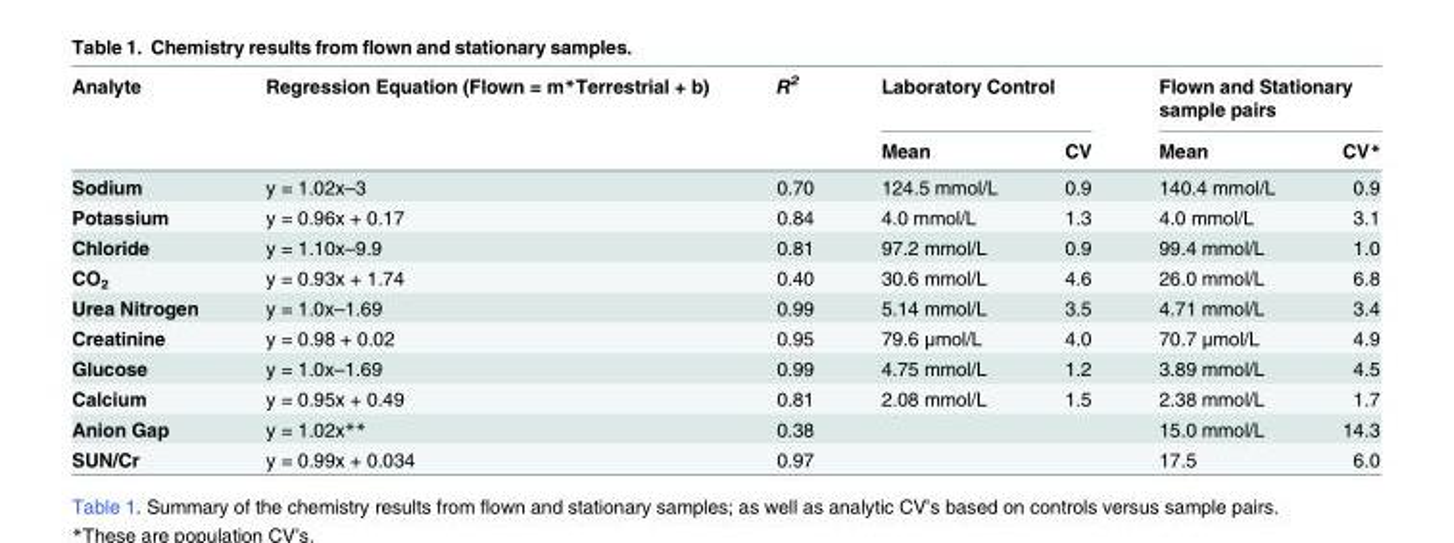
<table><thead><tr><td rowspan="2">Analyte</td><td rowspan="2">Regression Equation (Flown = m*Terrestrial + b)</td><td rowspan="2">R<sup>2</sup></td><td colspan="2">Laboratory Control</td><td colspan="2">Flown and Stationary sample pairs</td></tr><tr><td>Mean</td><td>CV</td><td>Mean</td><td>CV*</td></tr></thead><tbody><tr><td>Sodium</td><td>y = 1.02x–3</td><td>0.70</td><td>124.5 mmol/L</td><td>0.9</td><td>140.4 mmol/L</td><td>0.9</td></tr><tr><td>Potassium</td><td>y = 0.96x + 0.17</td><td>0.84</td><td>4.0 mmol/L</td><td>1.3</td><td>4.0 mmol/L</td><td>3.1</td></tr><tr><td>Chloride</td><td>y = 1.10x–9.9</td><td>0.81</td><td>97.2 mmol/L</td><td>0.9</td><td>99.4 mmol/L</td><td>1.0</td></tr><tr><td>CO<sub>2</sub></td><td>y = 0.93x + 1.74</td><td>0.40</td><td>30.6 mmol/L</td><td>4.6</td><td>26.0 mmol/L</td><td>6.8</td></tr><tr><td>Urea Nitrogen</td><td>y = 1.0x–1.69</td><td>0.99</td><td>5.14 mmol/L</td><td>3.5</td><td>4.71 mmol/L</td><td>3.4</td></tr><tr><td>Creatinine</td><td>y = 0.98 + 0.02</td><td>0.95</td><td>79.6 μmol/L</td><td>4.0</td><td>70.7 μmol/L</td><td>4.9</td></tr><tr><td>Glucose</td><td>y = 1.0x–1.69</td><td>0.99</td><td>4.75 mmol/L</td><td>1.2</td><td>3.89 mmol/L</td><td>4.5</td></tr><tr><td>Calcium</td><td>y = 0.95x + 0.49</td><td>0.81</td><td>2.08 mmol/L</td><td>1.5</td><td>2.38 mmol/L</td><td>1.7</td></tr><tr><td>Anion Gap</td><td>y = 1.02x**</td><td>0.38</td><td></td><td></td><td>15.0 mmol/L</td><td>14.3</td></tr><tr><td>SUN/Cr</td><td>y = 0.99x + 0.034</td><td>0.97</td><td></td><td></td><td>17.5</td><td>6.0</td></tr></tbody></table>